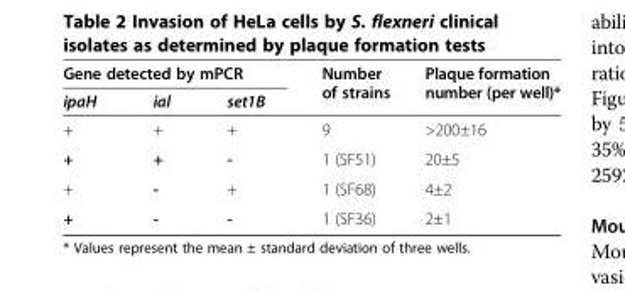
<table><thead><tr><td colspan="3">Gene detected by mPCR</td><td rowspan="2">Number of strains</td><td rowspan="2">Plaque formation number (per well)*</td></tr><tr><td>ipaH</td><td>ial</td><td>set1B</td></tr></thead><tbody><tr><td>+</td><td>+</td><td>+</td><td>9</td><td>&gt;200±16</td></tr><tr><td>+</td><td>+</td><td>-</td><td>1 (SF51)</td><td>20±5</td></tr><tr><td>+</td><td>-</td><td>+</td><td>1 (SF68)</td><td>4±2</td></tr><tr><td>+</td><td>-</td><td>-</td><td>1 (SF36)</td><td>2±1</td></tr></tbody></table>